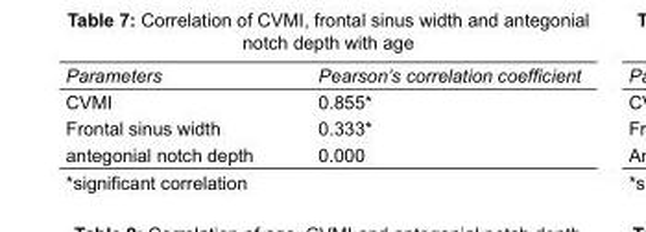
<table><tbody><tr><td>Parameters</td><td>Pearson’s correlation coefficient</td></tr><tr><td>CVMI</td><td>0.855*</td></tr><tr><td>Frontal sinus width</td><td>0.333*</td></tr><tr><td>antegonial notch depth</td><td>0.000</td></tr></tbody></table>